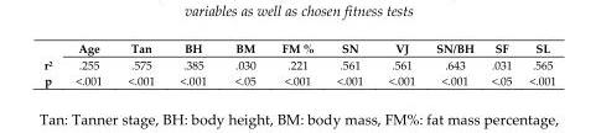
<table><thead><tr><td></td><td>Age</td><td>Tan</td><td>BH</td><td>BM</td><td>FM %</td><td>SN</td><td>VJ</td><td>SN/BH</td><td>SF</td><td>SL</td></tr></thead><tbody><tr><td>r<sup>2</sup></td><td>.255</td><td>.575</td><td>.385</td><td>.030</td><td>.221</td><td>.561</td><td>.561</td><td>.643</td><td>.031</td><td>.565</td></tr><tr><td>p</td><td>&lt;.001</td><td>&lt;.001</td><td>&lt;.001</td><td>&lt;.05</td><td>&lt;.001</td><td>&lt;.001</td><td>&lt;.001</td><td>&lt;.001</td><td>&lt;.05</td><td>&lt;.001</td></tr></tbody></table>